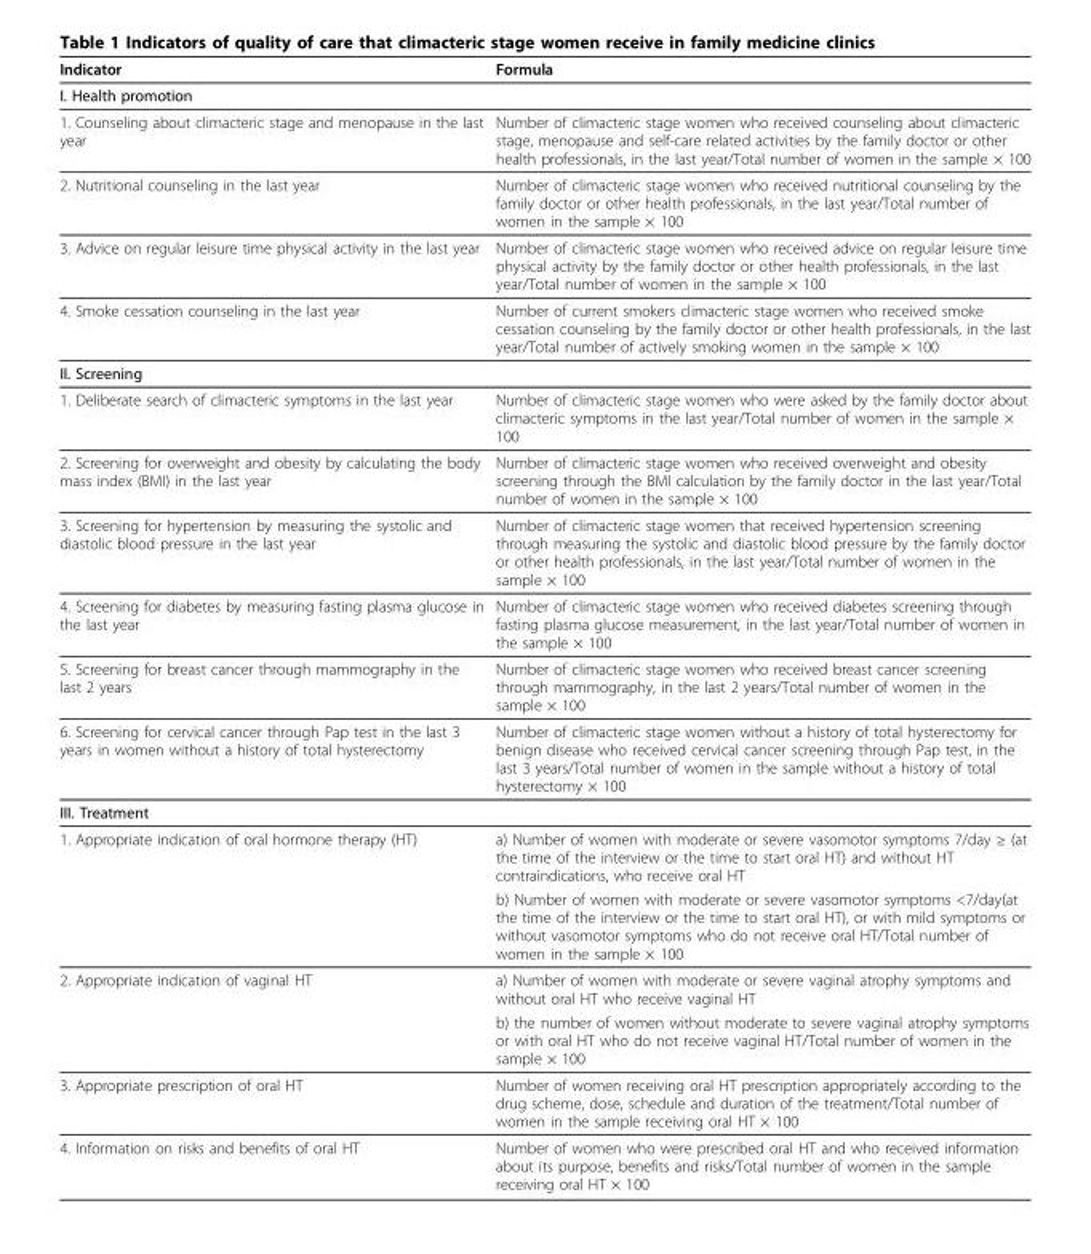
<table><thead><tr><td>Indicator</td><td>Formula</td></tr></thead><tbody><tr><td colspan="2">I. Health promotion</td></tr><tr><td>1. Counseling about climacteric stage and menopause in the last year</td><td>Number of climacteric stage women who received counseling about climacteric stage, menopause and self-care related activities by the family doctor or other health professionals, in the last year/Total number of women in the sample × 100</td></tr><tr><td>2. Nutritional counseling in the last year</td><td>Number of climacteric stage women who received nutritional counseling by the family doctor or other health professionals, in the last year/Total number of women in the sample × 100</td></tr><tr><td>3. Advice on regular leisure time physical activity in the last year</td><td>Number of climacteric stage women who received advice on regular leisure time physical activity by the family doctor or other health professionals, in the last year/Total number of women in the sample × 100</td></tr><tr><td>4. Smoke cessation counseling in the last year</td><td>Number of current smokers climacteric stage women who received smoke cessation counseling by the family doctor or other health professionals, in the last year/Total number of actively smoking women in the sample × 100</td></tr><tr><td colspan="2">II. Screening</td></tr><tr><td>1. Deliberate search of climacteric symptoms in the last year</td><td>Number of climacteric stage women who were asked by the family doctor about climacteric symptoms in the last year/Total number of women in the sample × 100</td></tr><tr><td>2. Screening for overweight and obesity by calculating the body mass index (BMI) in the last year</td><td>Number of climacteric stage women who received overweight and obesity screening through the BMI calculation by the family doctor in the last year/Total number of women in the sample × 100</td></tr><tr><td>3. Screening for hypertension by measuring the systolic and diastolic blood pressure in the last year</td><td>Number of climacteric stage women that received hypertension screening through measuring the systolic and diastolic blood pressure by the family doctor or other health professionals, in the last year/Total number of women in the sample × 100</td></tr><tr><td>4. Screening for diabetes by measuring fasting plasma glucose in the last year</td><td>Number of climacteric stage women who received diabetes screening through fasting plasma glucose measurement, in the last year/Total number of women in the sample × 100</td></tr><tr><td>5. Screening for breast cancer through mammography in the last 2 years</td><td>Number of climacteric stage women who received breast cancer screening through mammography, in the last 2 years/Total number of women in the sample × 100</td></tr><tr><td>6. Screening for cervical cancer through Pap test in the last 3 years in women without a history of total hysterectomy</td><td>Number of climacteric stage women without a history of total hysterectomy for benign disease who received cervical cancer screening through Pap test, in the last 3 years/Total number of women in the sample without a history of total hysterectomy × 100</td></tr><tr><td colspan="2">III. Treatment</td></tr><tr><td rowspan="2">1. Appropriate indication of oral hormone therapy (HT)</td><td>a) Number of women with moderate or severe vasomotor symptoms 7/day ≥ (at the time of the interview or the time to start oral HT) and without HT contraindications, who receive oral HT</td></tr><tr><td>b) Number of women with moderate or severe vasomotor symptoms &lt;7/day(at the time of the interview or the time to start oral HT), or with mild symptoms or without vasomotor symptoms who do not receive oral HT/Total number of women in the sample × 100</td></tr><tr><td rowspan="2">2. Appropriate indication of vaginal HT</td><td>a) Number of women with moderate or severe vaginal atrophy symptoms and without oral HT who receive vaginal HT</td></tr><tr><td>b) the number of women without moderate to severe vaginal atrophy symptoms or with oral HT who do not receive vaginal HT/Total number of women in the sample × 100</td></tr><tr><td>3. Appropriate prescription of oral HT</td><td>Number of women receiving oral HT prescription appropriately according to the drug scheme, dose, schedule and duration of the treatment/Total number of women in the sample receiving oral HT × 100</td></tr><tr><td>4. Information on risks and benefits of oral HT</td><td>Number of women who were prescribed oral HT and who received information about its purpose, benefits and risks/Total number of women in the sample receiving oral HT × 100</td></tr></tbody></table>